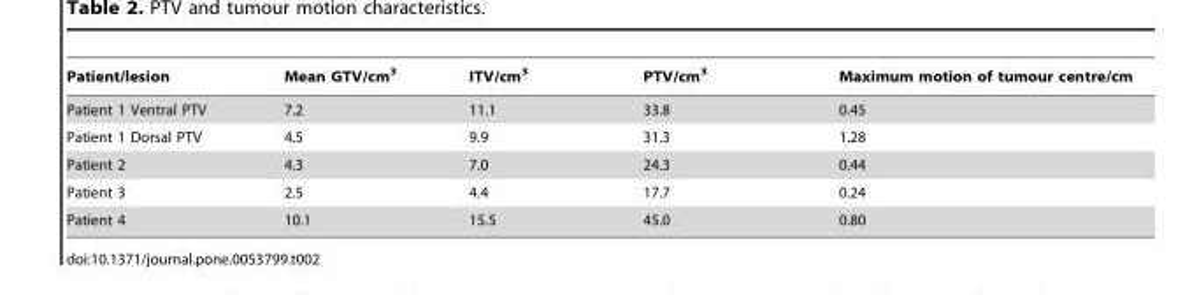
<table><thead><tr><td>Patient/lesion</td><td>Mean GTV/cm<sup>3</sup></td><td>ITV/cm<sup>3</sup></td><td>PTV/cm<sup>3</sup></td><td>Maximum motion of tumour centre/cm</td></tr></thead><tbody><tr><td>Patient 1 Ventral PTV</td><td>7.2</td><td>11.1</td><td>33.8</td><td>0.45</td></tr><tr><td>Patient 1 Dorsal PTV</td><td>4.5</td><td>9.9</td><td>31.3</td><td>1.28</td></tr><tr><td>Patient 2</td><td>4.3</td><td>7.0</td><td>24.3</td><td>0.44</td></tr><tr><td>Patient 3</td><td>2.5</td><td>4.4</td><td>17.7</td><td>0.24</td></tr><tr><td>Patient 4</td><td>10.1</td><td>15.5</td><td>45.0</td><td>0.80</td></tr></tbody></table>